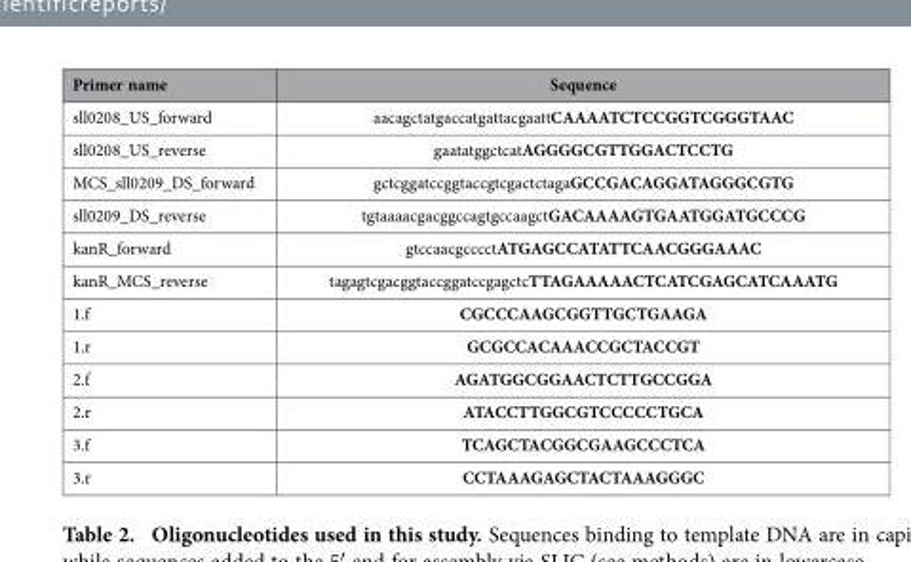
<table><thead><tr><td>Primer name</td><td>Sequence</td></tr></thead><tbody><tr><td>sll0208_US_forward</td><td>aacagctatgaccatgattacgaattCAAAATCTCCGGTCGGGTAAC</td></tr><tr><td>sll0208_US_reverse</td><td>gaatatggctcatAGGGGCGTTGGACTCCTG</td></tr><tr><td>MCS_sll0209_DS_forward</td><td>gctcggatccggtaccgtcgactctagaGCCGACAGGATAGGGCGTG</td></tr><tr><td>sll0209_DS_reverse</td><td>tgtaaaacgacggccagtgccaagctGACAAAAGTGAATGGATGCCCG</td></tr><tr><td>kanR_forward</td><td>gtccaacgcccctATGAGCCATATTCAACGGGAAAC</td></tr><tr><td>kanR_MCS_reverse</td><td>tagagtcgacggtaccggatccgagctcTTAGAAAAACTCATCGAGCATCAAATG</td></tr><tr><td>1.f</td><td>CGCCCAAGCGGTTGCTGAAGA</td></tr><tr><td>1.r</td><td>GCGCCACAAACCGCTACCGT</td></tr><tr><td>2.f</td><td>AGATGGCGGAACTCTTGCCGGA</td></tr><tr><td>2.r</td><td>ATACCTTGGCGTCCCCCTGCA</td></tr><tr><td>3.f</td><td>TCAGCTACGGCGAAGCCCTCA</td></tr><tr><td>3.r</td><td>CCTAAAGAGCTACTAAAGGGC</td></tr></tbody></table>